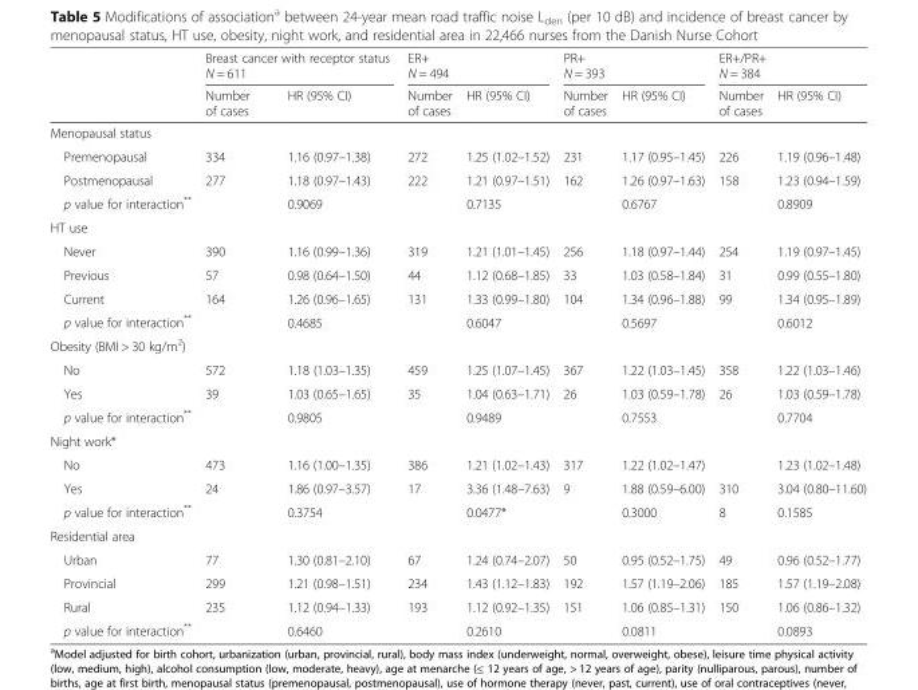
<table><thead><tr><td rowspan="2"></td><td colspan="2">Breast cancer with receptor status N = 611</td><td colspan="2">ER+ N = 494</td><td colspan="2">PR+ N = 393</td><td colspan="2">ER+/PR+ N = 384</td></tr><tr><td>Number of cases</td><td>HR (95% CI)</td><td>Number of cases</td><td>HR (95% CI)</td><td>Number of cases</td><td>HR (95% CI)</td><td>Number of cases</td><td>HR (95% CI)</td></tr></thead><tbody><tr><td colspan="9">Menopausal status</td></tr><tr><td>Premenopausal</td><td>334</td><td>1.16 (0.97–1.38)</td><td>272</td><td>1.25 (1.02–1.52)</td><td>231</td><td>1.17 (0.95–1.45)</td><td>226</td><td>1.19 (0.96–1.48)</td></tr><tr><td>Postmenopausal</td><td>277</td><td>1.18 (0.97–1.43)</td><td>222</td><td>1.21 (0.97–1.51)</td><td>162</td><td>1.26 (0.97–1.63)</td><td>158</td><td>1.23 (0.94–1.59)</td></tr><tr><td>p value for interaction**</td><td></td><td>0.9069</td><td></td><td>0.7135</td><td></td><td>0.6767</td><td></td><td>0.8909</td></tr><tr><td colspan="9">HT use</td></tr><tr><td>Never</td><td>390</td><td>1.16 (0.99–1.36)</td><td>319</td><td>1.21 (1.01–1.45)</td><td>256</td><td>1.18 (0.97–1.44)</td><td>254</td><td>1.19 (0.97–1.45)</td></tr><tr><td>Previous</td><td>57</td><td>0.98 (0.64–1.50)</td><td>44</td><td>1.12 (0.68–1.85)</td><td>33</td><td>1.03 (0.58–1.84)</td><td>31</td><td>0.99 (0.55–1.80)</td></tr><tr><td>Current</td><td>164</td><td>1.26 (0.96–1.65)</td><td>131</td><td>1.33 (0.99–1.80)</td><td>104</td><td>1.34 (0.96–1.88)</td><td>99</td><td>1.34 (0.95–1.89)</td></tr><tr><td>p value for interaction**</td><td></td><td>0.4685</td><td></td><td>0.6047</td><td></td><td>0.5697</td><td></td><td>0.6012</td></tr><tr><td colspan="9">Obesity (BMI &gt; 30 kg/m<sup>2</sup>)</td></tr><tr><td>No</td><td>572</td><td>1.18 (1.03–1.35)</td><td>459</td><td>1.25 (1.07–1.45)</td><td>367</td><td>1.22 (1.03–1.45)</td><td>358</td><td>1.22 (1.03–1.46)</td></tr><tr><td>Yes</td><td>39</td><td>1.03 (0.65–1.65)</td><td>35</td><td>1.04 (0.63–1.71)</td><td>26</td><td>1.03 (0.59–1.78)</td><td>26</td><td>1.03 (0.59–1.78)</td></tr><tr><td>p value for interaction**</td><td></td><td>0.9805</td><td></td><td>0.9489</td><td></td><td>0.7553</td><td></td><td>0.7704</td></tr><tr><td colspan="9">Night work*</td></tr><tr><td>No</td><td>473</td><td>1.16 (1.00–1.35)</td><td>386</td><td>1.21 (1.02–1.43)</td><td>317</td><td>1.22 (1.02–1.47)</td><td></td><td>1.23 (1.02–1.48)</td></tr><tr><td>Yes</td><td>24</td><td>1.86 (0.97–3.57)</td><td>17</td><td>3.36 (1.48–7.63)</td><td>9</td><td>1.88 (0.59–6.00)</td><td>310</td><td>3.04 (0.80–11.60)</td></tr><tr><td>p value for interaction**</td><td></td><td>0.3754</td><td></td><td>0.0477*</td><td></td><td>0.3000</td><td>8</td><td>0.1585</td></tr><tr><td colspan="9">Residential area</td></tr><tr><td>Urban</td><td>77</td><td>1.30 (0.81–2.10)</td><td>67</td><td>1.24 (0.74–2.07)</td><td>50</td><td>0.95 (0.52–1.75)</td><td>49</td><td>0.96 (0.52–1.77)</td></tr><tr><td>Provincial</td><td>299</td><td>1.21 (0.98–1.51)</td><td>234</td><td>1.43 (1.12–1.83)</td><td>192</td><td>1.57 (1.19–2.06)</td><td>185</td><td>1.57 (1.19–2.08)</td></tr><tr><td>Rural</td><td>235</td><td>1.12 (0.94–1.33)</td><td>193</td><td>1.12 (0.92–1.35)</td><td>151</td><td>1.06 (0.85–1.31)</td><td>150</td><td>1.06 (0.86–1.32)</td></tr><tr><td>p value for interaction**</td><td></td><td>0.6460</td><td></td><td>0.2610</td><td></td><td>0.0811</td><td></td><td>0.0893</td></tr></tbody></table>